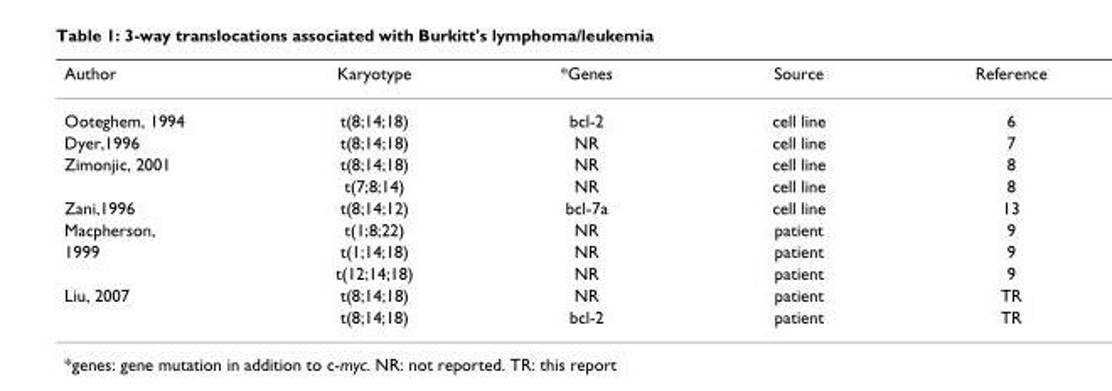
<table><thead><tr><td>Author</td><td>Karyotype</td><td>*Genes</td><td>Source</td><td>Reference</td></tr></thead><tbody><tr><td>Ooteghem, 1994</td><td>t(8;14;18)</td><td>bcl-2</td><td>cell line</td><td>6</td></tr><tr><td>Dyer,1996</td><td>t(8;14;18)</td><td>NR</td><td>cell line</td><td>7</td></tr><tr><td rowspan="2">Zimonjic, 2001</td><td>t(8;14;18)</td><td>NR</td><td>cell line</td><td>8</td></tr><tr><td>t(7;8;14)</td><td>NR</td><td>cell line</td><td>8</td></tr><tr><td>Zani,1996</td><td>t(8;14;12)</td><td>bcl-7a</td><td>cell line</td><td>13</td></tr><tr><td>Macpherson,</td><td>t(1;8;22)</td><td>NR</td><td>patient</td><td>9</td></tr><tr><td rowspan="2">1999</td><td>t(1;14;18)</td><td>NR</td><td>patient</td><td>9</td></tr><tr><td>t(12;14;18)</td><td>NR</td><td>patient</td><td>9</td></tr><tr><td rowspan="2">Liu, 2007</td><td>t(8;14;18)</td><td>NR</td><td>patient</td><td>TR</td></tr><tr><td>t(8;14;18)</td><td>bcl-2</td><td>patient</td><td>TR</td></tr></tbody></table>